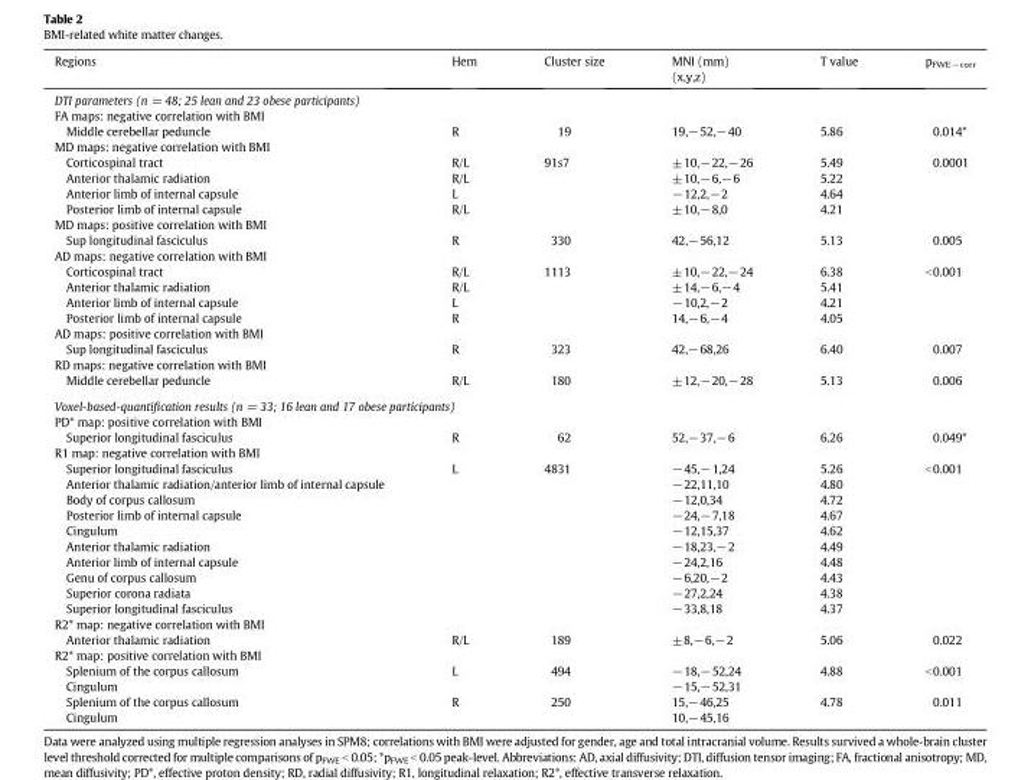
<table><thead><tr><td>Regions</td><td>Hem</td><td>Cluster size</td><td>MNI (mm) (x,y,z)</td><td>T value</td><td>p<sub>FWE−corr</sub></td></tr></thead><tbody><tr><td colspan="6">DTI parameters (n = 48; 25 lean and 23 obese participants)</td></tr><tr><td colspan="6">FA maps: negative correlation with BMI</td></tr><tr><td>Middle cerebellar peduncle</td><td>R</td><td>19</td><td>19,−52,−40</td><td>5.86</td><td>0.014*</td></tr><tr><td colspan="6">MD maps: negative correlation with BMI</td></tr><tr><td>Corticospinal tract</td><td>R/L</td><td>91s7</td><td>±10,−22,−26</td><td>5.49</td><td>0.0001</td></tr><tr><td>Anterior thalamic radiation</td><td>R/L</td><td></td><td>±10,−6,−6</td><td>5.22</td><td></td></tr><tr><td>Anterior limb of internal capsule</td><td>L</td><td></td><td>−12,2,−2</td><td>4.64</td><td></td></tr><tr><td>Posterior limb of internal capsule</td><td>R/L</td><td></td><td>±10,−8,0</td><td>4.21</td><td></td></tr><tr><td colspan="6">MD maps: positive correlation with BMI</td></tr><tr><td>Sup longitudinal fasciculus</td><td>R</td><td>330</td><td>42,−56,12</td><td>5.13</td><td>0.005</td></tr><tr><td colspan="6">AD maps: negative correlation with BMI</td></tr><tr><td>Corticospinal tract</td><td>R/L</td><td>1113</td><td>±10,−22,−24</td><td>6.38</td><td>&lt;0.001</td></tr><tr><td>Anterior thalamic radiation</td><td>R/L</td><td></td><td>±14,−6,−4</td><td>5.41</td><td></td></tr><tr><td>Anterior limb of internal capsule</td><td>L</td><td></td><td>−10,2,−2</td><td>4.21</td><td></td></tr><tr><td>Posterior limb of internal capsule</td><td>R</td><td></td><td>14,−6,−4</td><td>4.05</td><td></td></tr><tr><td colspan="6">AD maps: positive correlation with BMI</td></tr><tr><td>Sup longitudinal fasciculus</td><td>R</td><td>323</td><td>42,−68,26</td><td>6.40</td><td>0.007</td></tr><tr><td colspan="6">RD maps: negative correlation with BMI</td></tr><tr><td>Middle cerebellar peduncle</td><td>R/L</td><td>180</td><td>±12,−20,−28</td><td>5.13</td><td>0.006</td></tr><tr><td colspan="6">Voxel-based-quantification results (n = 33; 16 lean and 17 obese participants)</td></tr><tr><td colspan="6">PD* map: positive correlation with BMI</td></tr><tr><td>Superior longitudinal fasciculus</td><td>R</td><td>62</td><td>52,−37,−6</td><td>6.26</td><td>0.049*</td></tr><tr><td colspan="6">R1 map: negative correlation with BMI</td></tr><tr><td>Superior longitudinal fasciculus</td><td>L</td><td>4831</td><td>−45,−1,24</td><td>5.26</td><td>&lt;0.001</td></tr><tr><td>Anterior thalamic radiation/anterior limb of internal capsule</td><td></td><td></td><td>−22,11,10</td><td>4.80</td><td></td></tr><tr><td>Body of corpus callosum</td><td></td><td></td><td>−12,0,34</td><td>4.72</td><td></td></tr><tr><td>Posterior limb of internal capsule</td><td></td><td></td><td>−24,−7,18</td><td>4.67</td><td></td></tr><tr><td>Cingulum</td><td></td><td></td><td>−12,15,37</td><td>4.62</td><td></td></tr><tr><td>Anterior thalamic radiation</td><td></td><td></td><td>−18,23,−2</td><td>4.49</td><td></td></tr><tr><td>Anterior limb of internal capsule</td><td></td><td></td><td>−24,2,16</td><td>4.48</td><td></td></tr><tr><td>Genu of corpus callosum</td><td></td><td></td><td>−6,20,−2</td><td>4.43</td><td></td></tr><tr><td>Superior corona radiata</td><td></td><td></td><td>−27,2,24</td><td>4.38</td><td></td></tr><tr><td>Superior longitudinal fasciculus</td><td></td><td></td><td>−33,8,18</td><td>4.37</td><td></td></tr><tr><td colspan="6">R2* map: negative correlation with BMI</td></tr><tr><td>Anterior thalamic radiation</td><td>R/L</td><td>189</td><td>±8,−6,−2</td><td>5.06</td><td>0.022</td></tr><tr><td colspan="6">R2* map: positive correlation with BMI</td></tr><tr><td>Splenium of the corpus callosum</td><td>L</td><td>494</td><td>−18,−52,24</td><td>4.88</td><td>&lt;0.001</td></tr><tr><td>Cingulum</td><td></td><td></td><td>−15,−52,31</td><td></td><td></td></tr><tr><td>Splenium of the corpus callosum</td><td>R</td><td>250</td><td>15,−46,25</td><td>4.78</td><td>0.011</td></tr><tr><td>Cingulum</td><td></td><td></td><td>10,−45,16</td><td></td><td></td></tr></tbody></table>